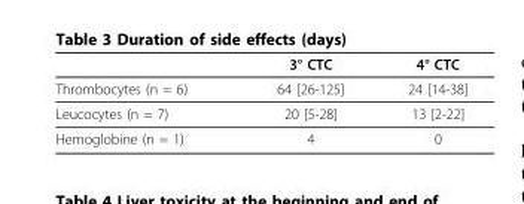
<table><thead><tr><td></td><td>3° CTC</td><td>4° CTC</td></tr></thead><tbody><tr><td>Thrombocytes (n = 6)</td><td>64 [26-125]</td><td>24 [14-38]</td></tr><tr><td>Leucocytes (n = 7)</td><td>20 [5-28]</td><td>13 [2-22]</td></tr><tr><td>Hemoglobine (n = 1)</td><td>4</td><td>0</td></tr></tbody></table>